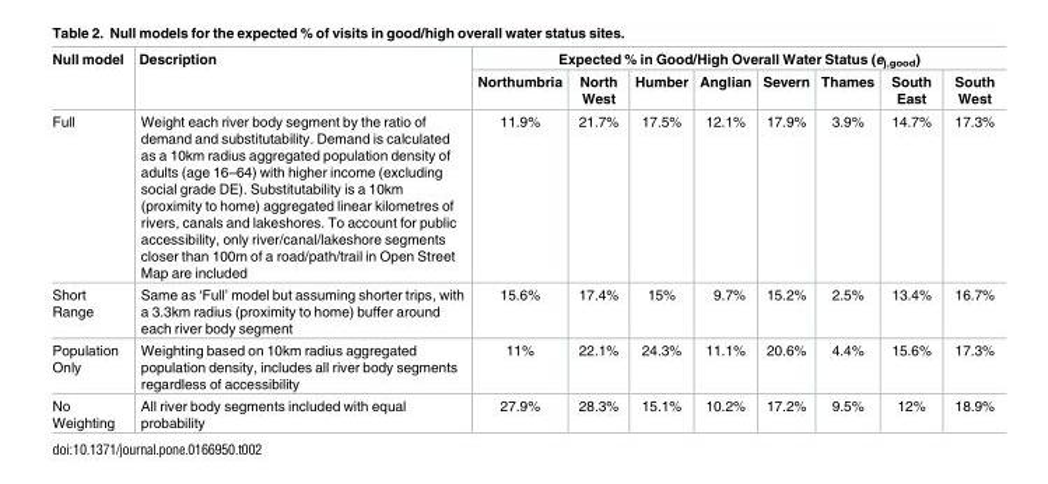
<table><thead><tr><td rowspan="2">Null model</td><td rowspan="2">Description</td><td colspan="8">Expected % in Good/High Overall Water Status (e<sub>j,good</sub>)</td></tr><tr><td>Northumbria</td><td>North West</td><td>Humber</td><td>Anglian</td><td>Severn</td><td>Thames</td><td>South East</td><td>South West</td></tr></thead><tbody><tr><td>Full</td><td>Weight each river body segment by the ratio of demand and substitutability. Demand is calculated as a 10km radius aggregated population density of adults (age 16–64) with higher income (excluding social grade DE). Substitutability is a 10km (proximity to home) aggregated linear kilometres of rivers, canals and lakeshores. To account for public accessibility, only river/canal/lakeshore segments closer than 100m of a road/path/trail in Open Street Map are included</td><td>11.9%</td><td>21.7%</td><td>17.5%</td><td>12.1%</td><td>17.9%</td><td>3.9%</td><td>14.7%</td><td>17.3%</td></tr><tr><td>Short Range</td><td>Same as ‘Full’ model but assuming shorter trips, with a 3.3km radius (proximity to home) buffer around each river body segment</td><td>15.6%</td><td>17.4%</td><td>15%</td><td>9.7%</td><td>15.2%</td><td>2.5%</td><td>13.4%</td><td>16.7%</td></tr><tr><td>Population Only</td><td>Weighting based on 10km radius aggregated population density, includes all river body segments regardless of accessibility</td><td>11%</td><td>22.1%</td><td>24.3%</td><td>11.1%</td><td>20.6%</td><td>4.4%</td><td>15.6%</td><td>17.3%</td></tr><tr><td>No Weighting</td><td>All river body segments included with equal probability</td><td>27.9%</td><td>28.3%</td><td>15.1%</td><td>10.2%</td><td>17.2%</td><td>9.5%</td><td>12%</td><td>18.9%</td></tr></tbody></table>